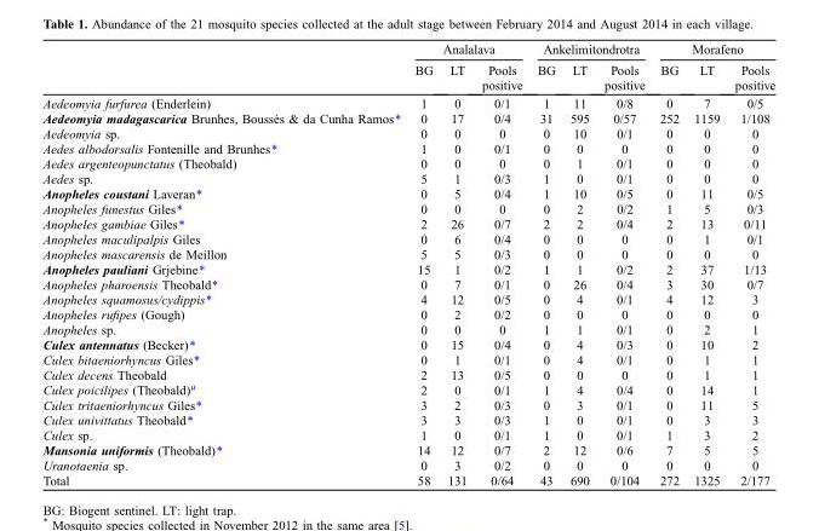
<table><thead><tr><td rowspan="2"></td><td colspan="3">Analalava</td><td colspan="3">Ankelimitondrotra</td><td colspan="3">Morafeno</td></tr><tr><td>BG</td><td>LT</td><td>Pools positive</td><td>BG</td><td>LT</td><td>Pools positive</td><td>BG</td><td>LT</td><td>Pools positive</td></tr></thead><tbody><tr><td>Aedeomyia furfurea (Enderlein)</td><td>1</td><td>0</td><td>0/1</td><td>1</td><td>11</td><td>0/8</td><td>0</td><td>7</td><td>0/5</td></tr><tr><td>Aedeomyia madagascarica Brunhes, Boussès &amp; da Cunha Ramos*</td><td>0</td><td>17</td><td>0/4</td><td>31</td><td>595</td><td>0/57</td><td>252</td><td>1159</td><td>1/108</td></tr><tr><td>Aedeomyia sp.</td><td>0</td><td>0</td><td>0</td><td>0</td><td>10</td><td>0/1</td><td>0</td><td>0</td><td>0</td></tr><tr><td>Aedes albodorsalis Fontenille and Brunhes*</td><td>1</td><td>0</td><td>0/1</td><td>0</td><td>0</td><td>0</td><td>0</td><td>0</td><td>0</td></tr><tr><td>Aedes argenteopunctatus (Theobald)</td><td>0</td><td>0</td><td>0</td><td>0</td><td>1</td><td>0/1</td><td>0</td><td>0</td><td>0</td></tr><tr><td>Aedes sp.</td><td>5</td><td>1</td><td>0/3</td><td>1</td><td>0</td><td>0/1</td><td>0</td><td>0</td><td>0</td></tr><tr><td>Anopheles coustani Laveran*</td><td>0</td><td>5</td><td>0/4</td><td>1</td><td>10</td><td>0/5</td><td>0</td><td>11</td><td>0/5</td></tr><tr><td>Anopheles funestus Giles*</td><td>0</td><td>0</td><td>0</td><td>0</td><td>2</td><td>0/2</td><td>1</td><td>5</td><td>0/3</td></tr><tr><td>Anopheles gambiae Giles*</td><td>2</td><td>26</td><td>0/7</td><td>2</td><td>2</td><td>0/4</td><td>2</td><td>13</td><td>0/11</td></tr><tr><td>Anopheles maculipalpis Giles</td><td>0</td><td>6</td><td>0/4</td><td>0</td><td>0</td><td>0</td><td>0</td><td>1</td><td>0/1</td></tr><tr><td>Anopheles mascarensis de Meillon</td><td>5</td><td>5</td><td>0/3</td><td>0</td><td>0</td><td>0</td><td>0</td><td>0</td><td>0</td></tr><tr><td>Anopheles pauliani Grjebine*</td><td>15</td><td>1</td><td>0/2</td><td>1</td><td>1</td><td>0/2</td><td>2</td><td>37</td><td>1/13</td></tr><tr><td>Anopheles pharoensis Theobald*</td><td>0</td><td>7</td><td>0/1</td><td>0</td><td>26</td><td>0/4</td><td>3</td><td>30</td><td>0/7</td></tr><tr><td>Anopheles squamosus/cydippis*</td><td>4</td><td>12</td><td>0/5</td><td>0</td><td>4</td><td>0/1</td><td>4</td><td>12</td><td>3</td></tr><tr><td>Anopheles rufipes (Gough)</td><td>0</td><td>2</td><td>0/2</td><td>0</td><td>0</td><td>0</td><td>0</td><td>0</td><td>0</td></tr><tr><td>Anopheles sp.</td><td>0</td><td>0</td><td>0</td><td>1</td><td>1</td><td>0/1</td><td>0</td><td>2</td><td>1</td></tr><tr><td>Culex antennatus (Becker)*</td><td>0</td><td>15</td><td>0/4</td><td>0</td><td>4</td><td>0/3</td><td>0</td><td>10</td><td>2</td></tr><tr><td>Culex bitaeniorhyncus Giles*</td><td>0</td><td>1</td><td>0/1</td><td>0</td><td>4</td><td>0/1</td><td>0</td><td>1</td><td>1</td></tr><tr><td>Culex decens Theobald</td><td>2</td><td>13</td><td>0/5</td><td>0</td><td>0</td><td>0</td><td>0</td><td>1</td><td>1</td></tr><tr><td>Culex poicilipes (Theobald)μ</td><td>2</td><td>0</td><td>0/1</td><td>1</td><td>4</td><td>0/4</td><td>0</td><td>14</td><td>1</td></tr><tr><td>Culex tritaeniorhyncus Giles*</td><td>3</td><td>2</td><td>0/3</td><td>0</td><td>3</td><td>0/1</td><td>0</td><td>11</td><td>5</td></tr><tr><td>Culex univittatus Theobald*</td><td>3</td><td>3</td><td>0/3</td><td>1</td><td>0</td><td>0/1</td><td>0</td><td>3</td><td>3</td></tr><tr><td>Culex sp.</td><td>1</td><td>0</td><td>0/1</td><td>1</td><td>0</td><td>0/1</td><td>1</td><td>3</td><td>2</td></tr><tr><td>Mansonia uniformis (Theobald)*</td><td>14</td><td>12</td><td>0/7</td><td>2</td><td>12</td><td>0/6</td><td>7</td><td>5</td><td>5</td></tr><tr><td>Uranotaenia sp.</td><td>0</td><td>3</td><td>0/2</td><td>0</td><td>0</td><td>0</td><td>0</td><td>0</td><td>0</td></tr><tr><td>Total</td><td>58</td><td>131</td><td>0/64</td><td>43</td><td>690</td><td>0/104</td><td>272</td><td>1325</td><td>2/177</td></tr></tbody></table>